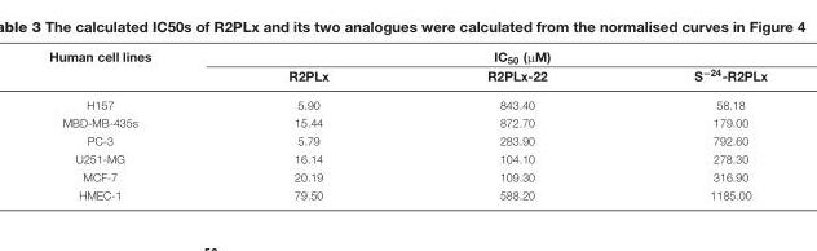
<table><thead><tr><td rowspan="2">Human cell lines</td><td colspan="3">IC<sub>50</sub> (μM)</td></tr><tr><td>R2PLx</td><td>R2PLx-22</td><td>S<sup>−24</sup>-R2PLx</td></tr></thead><tbody><tr><td>H157</td><td>5.90</td><td>843.40</td><td>58.18</td></tr><tr><td>MBD-MB-435s</td><td>15.44</td><td>872.70</td><td>179.00</td></tr><tr><td>PC-3</td><td>5.79</td><td>283.90</td><td>792.60</td></tr><tr><td>U251-MG</td><td>16.14</td><td>104.10</td><td>278.30</td></tr><tr><td>MCF-7</td><td>20.19</td><td>109.30</td><td>316.90</td></tr><tr><td>HMEC-1</td><td>79.50</td><td>588.20</td><td>1185.00</td></tr></tbody></table>